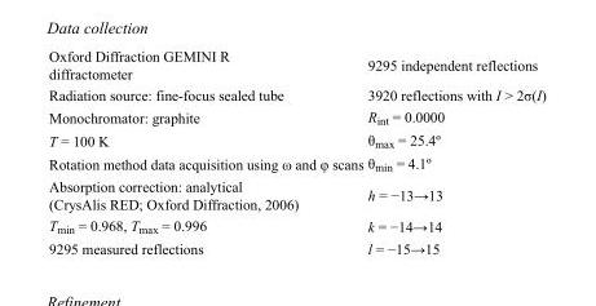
<table><tbody><tr><td>Oxford Diffraction GEMINI R diffractometer</td><td>9295 independent reflections</td></tr><tr><td>Radiation source: fine-focus sealed tube</td><td>3920 reflections with I &gt; 2σ(I)</td></tr><tr><td>Monochromator: graphite</td><td>R<sub>int</sub> = 0.0000</td></tr><tr><td>T = 100 K</td><td>θ<sub>max</sub> = 25.4º</td></tr><tr><td>Rotation method data acquisition using ω and φ scans</td><td>θ<sub>min</sub> = 4.1º</td></tr><tr><td>Absorption correction: analytical (CrysAlis RED; Oxford Diffraction, 2006)</td><td>h = −13→13</td></tr><tr><td>T<sub>min</sub> = 0.968, T<sub>max</sub> = 0.996</td><td>k = −14→14</td></tr><tr><td>9295 measured reflections</td><td>l = −15→15</td></tr></tbody></table>